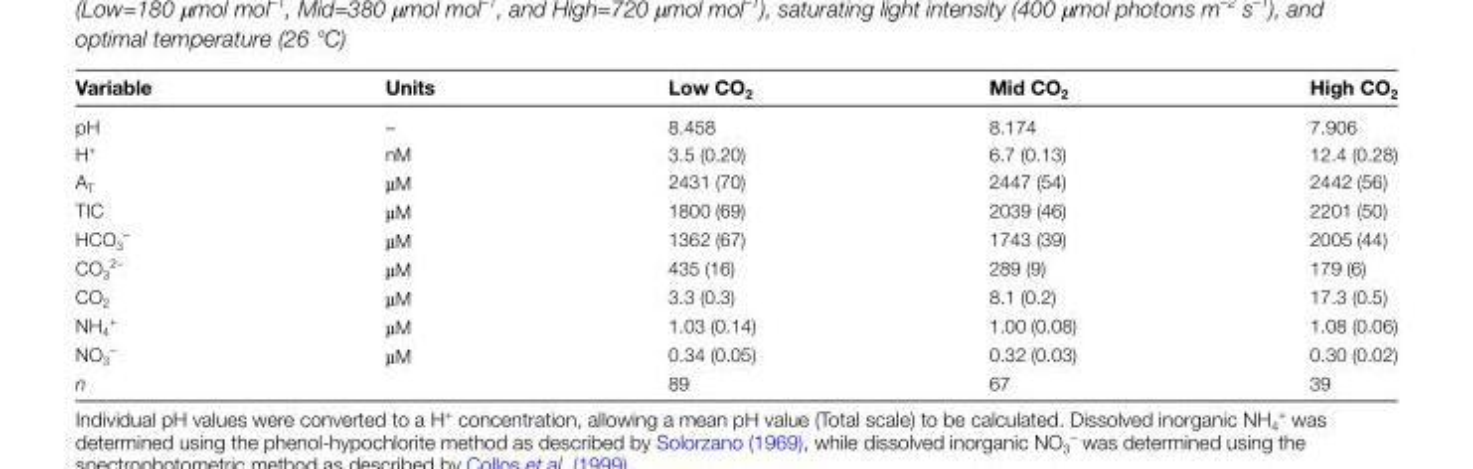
<table><thead><tr><td>Variable</td><td>Units</td><td>Low CO<sub>2</sub></td><td>Mid CO<sub>2</sub></td><td>High CO<sub>2</sub></td></tr></thead><tbody><tr><td>pH</td><td>–</td><td>8.458</td><td>8.174</td><td>7.906</td></tr><tr><td>H<sup>+</sup></td><td>nM</td><td>3.5 (0.20)</td><td>6.7 (0.13)</td><td>12.4 (0.28)</td></tr><tr><td>A<sub>T</sub></td><td>µM</td><td>2431 (70)</td><td>2447 (54)</td><td>2442 (56)</td></tr><tr><td>TIC</td><td>µM</td><td>1800 (69)</td><td>2039 (46)</td><td>2201 (50)</td></tr><tr><td>HCO<sub>3</sub> <sup>–</sup></td><td>µM</td><td>1362 (67)</td><td>1743 (39)</td><td>2005 (44)</td></tr><tr><td>CO<sub>3</sub> <sup>2–</sup></td><td>µM</td><td>435 (16)</td><td>289 (9)</td><td>179 (6)</td></tr><tr><td>CO<sub>2</sub></td><td>µM</td><td>3.3 (0.3)</td><td>8.1 (0.2)</td><td>17.3 (0.5)</td></tr><tr><td>NH<sub>4</sub> <sup>+</sup></td><td>µM</td><td>1.03 (0.14)</td><td>1.00 (0.08)</td><td>1.08 (0.06)</td></tr><tr><td>NO<sub>3</sub> <sup>–</sup></td><td>µM</td><td>0.34 (0.05)</td><td>0.32 (0.03)</td><td>0.30 (0.02)</td></tr><tr><td>n</td><td></td><td>89</td><td>67</td><td>39</td></tr></tbody></table>